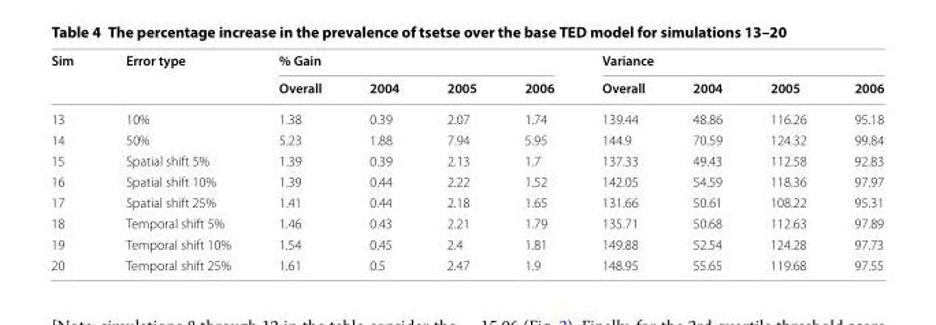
<table><thead><tr><td rowspan="2">Sim</td><td rowspan="2">Error type</td><td colspan="4">% Gain</td><td colspan="4">Variance</td></tr><tr><td>Overall</td><td>2004</td><td>2005</td><td>2006</td><td>Overall</td><td>2004</td><td>2005</td><td>2006</td></tr></thead><tbody><tr><td>13</td><td>10%</td><td>1.38</td><td>0.39</td><td>2.07</td><td>1.74</td><td>139.44</td><td>48.86</td><td>116.26</td><td>95.18</td></tr><tr><td>14</td><td>50%</td><td>5.23</td><td>1.88</td><td>7.94</td><td>5.95</td><td>144.9</td><td>70.59</td><td>124.32</td><td>99.84</td></tr><tr><td>15</td><td>Spatial shift 5%</td><td>1.39</td><td>0.39</td><td>2.13</td><td>1.7</td><td>137.33</td><td>49.43</td><td>112.58</td><td>92.83</td></tr><tr><td>16</td><td>Spatial shift 10%</td><td>1.39</td><td>0.44</td><td>2.22</td><td>1.52</td><td>142.05</td><td>54.59</td><td>118.36</td><td>97.97</td></tr><tr><td>17</td><td>Spatial shift 25%</td><td>1.41</td><td>0.44</td><td>2.18</td><td>1.65</td><td>131.66</td><td>50.61</td><td>108.22</td><td>95.31</td></tr><tr><td>18</td><td>Temporal shift 5%</td><td>1.46</td><td>0.43</td><td>2.21</td><td>1.79</td><td>135.71</td><td>50.68</td><td>112.63</td><td>97.89</td></tr><tr><td>19</td><td>Temporal shift 10%</td><td>1.54</td><td>0.45</td><td>2.4</td><td>1.81</td><td>149.88</td><td>52.54</td><td>124.28</td><td>97.73</td></tr><tr><td>20</td><td>Temporal shift 25%</td><td>1.61</td><td>0.5</td><td>2.47</td><td>1.9</td><td>148.95</td><td>55.65</td><td>119.68</td><td>97.55</td></tr></tbody></table>